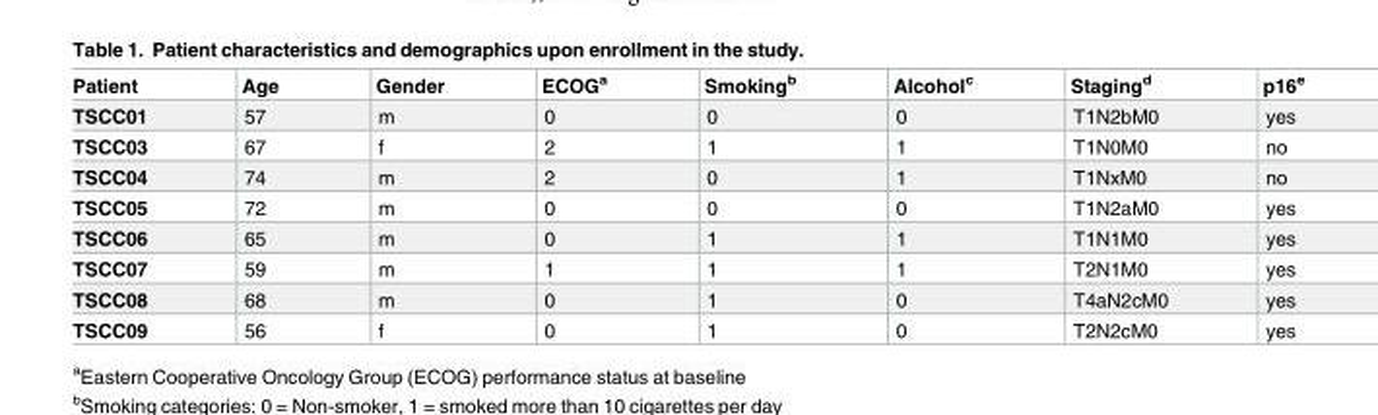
<table><thead><tr><td>Patient</td><td>Age</td><td>Gender</td><td>ECOG<sup>a</sup></td><td>Smoking<sup>b</sup></td><td>Alcohol<sup>c</sup></td><td>Staging<sup>d</sup></td><td>p16<sup>e</sup></td></tr></thead><tbody><tr><td>TSCC01</td><td>57</td><td>m</td><td>0</td><td>0</td><td>0</td><td>T1N2bM0</td><td>yes</td></tr><tr><td>TSCC03</td><td>67</td><td>f</td><td>2</td><td>1</td><td>1</td><td>T1N0M0</td><td>no</td></tr><tr><td>TSCC04</td><td>74</td><td>m</td><td>2</td><td>0</td><td>1</td><td>T1NxM0</td><td>no</td></tr><tr><td>TSCC05</td><td>72</td><td>m</td><td>0</td><td>0</td><td>0</td><td>T1N2aM0</td><td>yes</td></tr><tr><td>TSCC06</td><td>65</td><td>m</td><td>0</td><td>1</td><td>1</td><td>T1N1M0</td><td>yes</td></tr><tr><td>TSCC07</td><td>59</td><td>m</td><td>1</td><td>1</td><td>1</td><td>T2N1M0</td><td>yes</td></tr><tr><td>TSCC08</td><td>68</td><td>m</td><td>0</td><td>1</td><td>0</td><td>T4aN2cM0</td><td>yes</td></tr><tr><td>TSCC09</td><td>56</td><td>f</td><td>0</td><td>1</td><td>0</td><td>T2N2cM0</td><td>yes</td></tr></tbody></table>